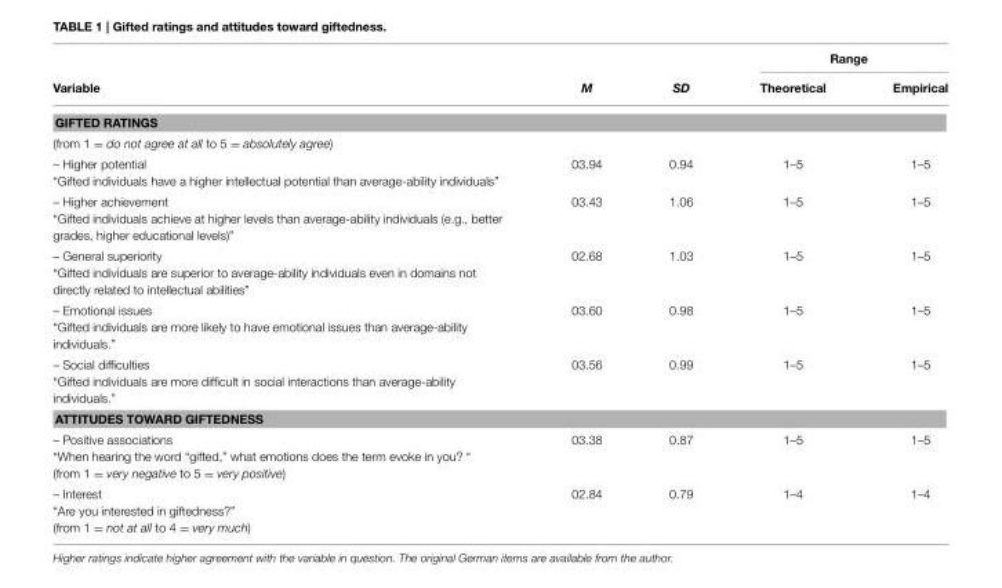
<table><thead><tr><td rowspan="2">Variable</td><td rowspan="2">M</td><td rowspan="2">SD</td><td colspan="2">Range</td></tr><tr><td>Theoretical</td><td>Empirical</td></tr></thead><tbody><tr><td colspan="5">GIFTED RATINGS</td></tr><tr><td colspan="5">(from 1 = do not agree at all to 5 = absolutely agree)</td></tr><tr><td>– Higher potential “Gifted individuals have a higher intellectual potential than average-ability individuals”</td><td>03.94</td><td>0.94</td><td>1–5</td><td>1–5</td></tr><tr><td>– Higher achievement “Gifted individuals achieve at higher levels than average-ability individuals (e.g., better grades, higher educational levels)”</td><td>03.43</td><td>1.06</td><td>1–5</td><td>1–5</td></tr><tr><td>– General superiority “Gifted individuals are superior to average-ability individuals even in domains not directly related to intellectual abilities”</td><td>02.68</td><td>1.03</td><td>1–5</td><td>1–5</td></tr><tr><td>– Emotional issues “Gifted individuals are more likely to have emotional issues than average-ability individuals.”</td><td>03.60</td><td>0.98</td><td>1–5</td><td>1–5</td></tr><tr><td>– Social difficulties “Gifted individuals are more difficult in social interactions than average-ability individuals.”</td><td>03.56</td><td>0.99</td><td>1–5</td><td>1–5</td></tr><tr><td colspan="5">ATTITUDES TOWARD GIFTEDNESS</td></tr><tr><td>– Positive associations “When hearing the word “gifted,” what emotions does the term evoke in you? “ (from 1 = very negative to 5 = very positive)</td><td>03.38</td><td>0.87</td><td>1–5</td><td>1–5</td></tr><tr><td>– Interest “Are you interested in giftedness?” (from 1 = not at all to 4 = very much)</td><td>02.84</td><td>0.79</td><td>1–4</td><td>1–4</td></tr></tbody></table>